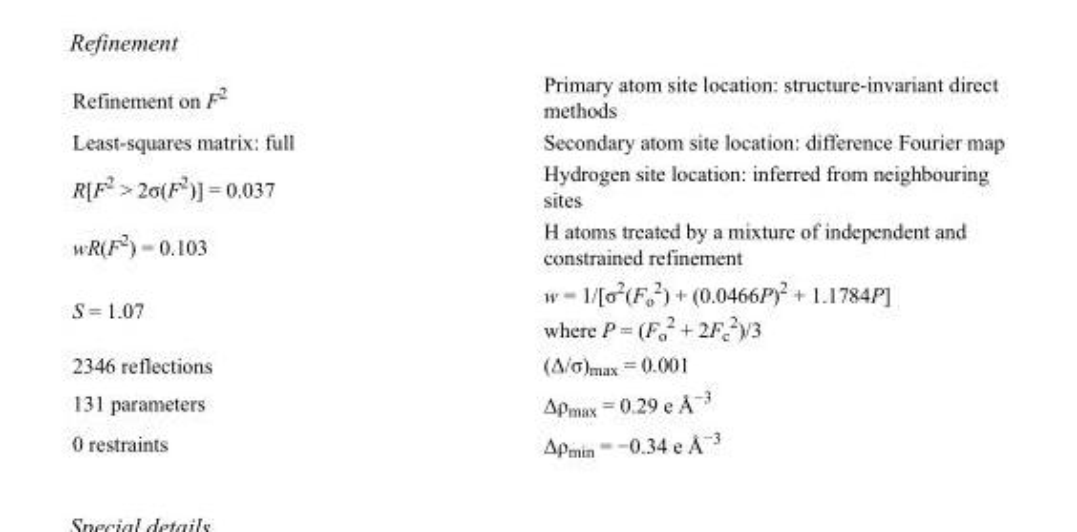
<table><tbody><tr><td>Refinement on F<sup>2</sup></td><td>Primary atom site location: structure-invariant direct methods</td></tr><tr><td>Least-squares matrix: full</td><td>Secondary atom site location: difference Fourier map</td></tr><tr><td>R[F<sup>2</sup> &gt; 2σ(F<sup>2</sup>)] = 0.037</td><td>Hydrogen site location: inferred from neighbouring sites</td></tr><tr><td>wR(F<sup>2</sup>) = 0.103</td><td>H atoms treated by a mixture of independent and constrained refinement</td></tr><tr><td>S = 1.07</td><td>w = 1/[σ<sup>2</sup>(F<sub>o</sub> <sup>2</sup>) + (0.0466P)<sup>2</sup> + 1.1784P] where P = (F<sub>o</sub> <sup>2</sup> + 2F<sub>c</sub> <sup>2</sup>)/3</td></tr><tr><td>2346 reflections</td><td>(Δ/σ)<sub>max</sub> = 0.001</td></tr><tr><td>131 parameters</td><td>Δρ<sub>max</sub> = 0.29 e Å<sup>−3</sup></td></tr><tr><td>0 restraints</td><td>Δρ<sub>min</sub> = −0.34 e Å<sup>−3</sup></td></tr></tbody></table>